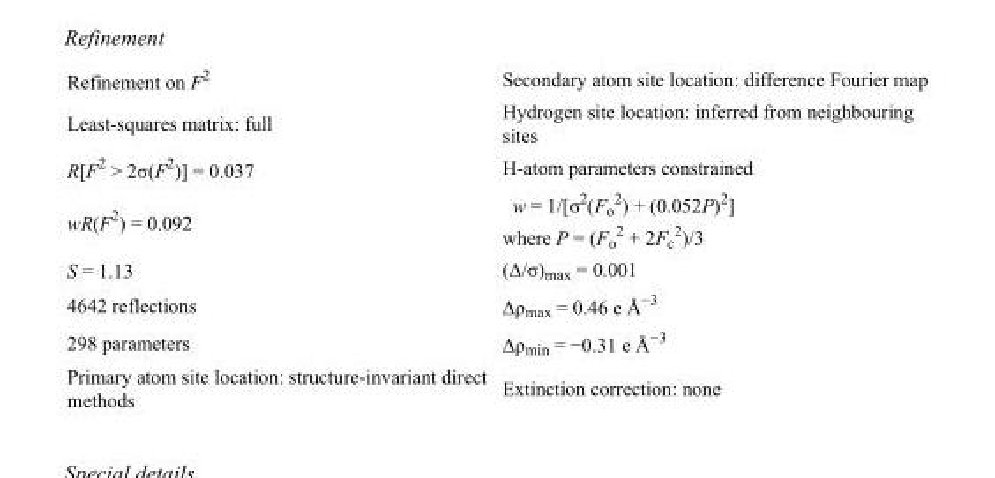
<table><tbody><tr><td>Refinement on F<sup>2</sup></td><td>Secondary atom site location: difference Fourier map</td></tr><tr><td>Least-squares matrix: full</td><td>Hydrogen site location: inferred from neighbouring sites</td></tr><tr><td>R[F<sup>2</sup> &gt; 2σ(F<sup>2</sup>)] = 0.037</td><td>H-atom parameters constrained</td></tr><tr><td>wR(F<sup>2</sup>) = 0.092</td><td>w = 1/[σ<sup>2</sup>(F<sub>o</sub> <sup>2</sup>) + (0.052P)<sup>2</sup>] where P = (F<sub>o</sub> <sup>2</sup> + 2F<sub>c</sub> <sup>2</sup>)/3</td></tr><tr><td>S = 1.13</td><td>(Δ/σ)<sub>max</sub> = 0.001</td></tr><tr><td>4642 reflections</td><td>Δρ<sub>max</sub> = 0.46 e Å<sup>−3</sup></td></tr><tr><td>298 parameters</td><td>Δρ<sub>min</sub> = −0.31 e Å<sup>−3</sup></td></tr><tr><td>Primary atom site location: structure-invariant direct methods</td><td>Extinction correction: none</td></tr></tbody></table>